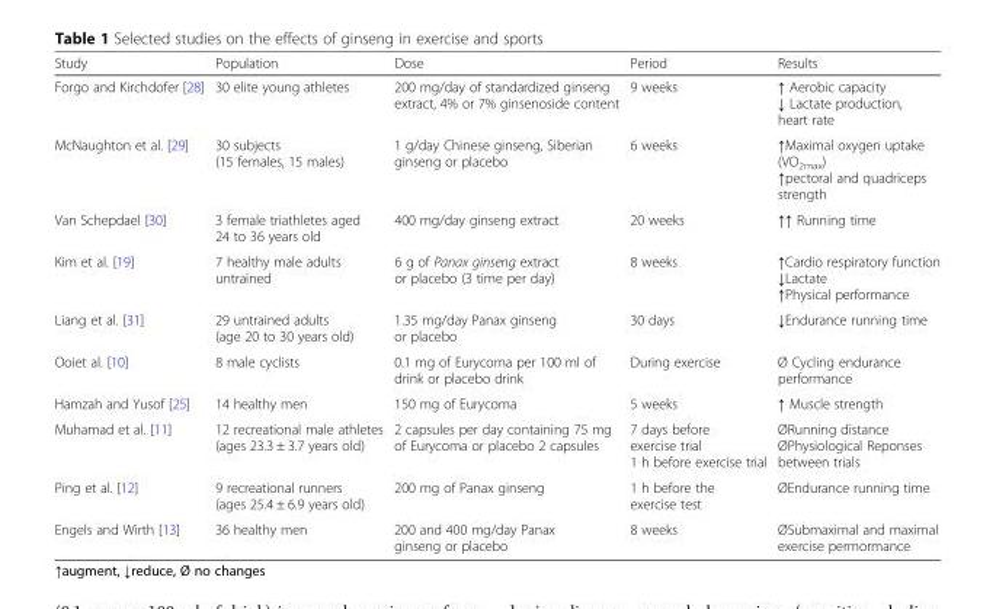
<table><thead><tr><td>Study</td><td>Population</td><td>Dose</td><td>Period</td><td>Results</td></tr></thead><tbody><tr><td>Forgo and Kirchdofer [28]</td><td>30 elite young athletes</td><td>200 mg/day of standardized ginseng extract, 4% or 7% ginsenoside content</td><td>9 weeks</td><td>↑ Aerobic capacity ↓ Lactate production, heart rate</td></tr><tr><td>McNaughton et al. [29]</td><td>30 subjects (15 females, 15 males)</td><td>1 g/day Chinese ginseng, Siberian ginseng or placebo</td><td>6 weeks</td><td>↑Maximal oxygen uptake (VO<sub>2max</sub>) ↑pectoral and quadriceps strength</td></tr><tr><td>Van Schepdael [30]</td><td>3 female triathletes aged 24 to 36 years old</td><td>400 mg/day ginseng extract</td><td>20 weeks</td><td>↑↑ Running time</td></tr><tr><td>Kim et al. [19]</td><td>7 healthy male adults untrained</td><td>6 g of Panax ginseng extract or placebo (3 time per day)</td><td>8 weeks</td><td>↑Cardio respiratory function ↓Lactate ↑Physical performance</td></tr><tr><td>Liang et al. [31]</td><td>29 untrained adults (age 20 to 30 years old)</td><td>1.35 mg/day Panax ginseng or placebo</td><td>30 days</td><td>↓Endurance running time</td></tr><tr><td>Ooiet al. [10]</td><td>8 male cyclists</td><td>0.1 mg of Eurycoma per 100 ml of drink or placebo drink</td><td>During exercise</td><td>Ø Cycling endurance performance</td></tr><tr><td>Hamzah and Yusof [25]</td><td>14 healthy men</td><td>150 mg of Eurycoma</td><td>5 weeks</td><td>↑ Muscle strength</td></tr><tr><td>Muhamad et al. [11]</td><td>12 recreational male athletes (ages 23.3 ± 3.7 years old)</td><td>2 capsules per day containing 75 mg of Eurycoma or placebo 2 capsules</td><td>7 days before exercise trial 1 h before exercise trial</td><td>ØRunning distance ØPhysiological Reponses between trials</td></tr><tr><td>Ping et al. [12]</td><td>9 recreational runners (ages 25.4 ± 6.9 years old)</td><td>200 mg of Panax ginseng</td><td>1 h before the exercise test</td><td>ØEndurance running time</td></tr><tr><td>Engels and Wirth [13]</td><td>36 healthy men</td><td>200 and 400 mg/day Panax ginseng or placebo</td><td>8 weeks</td><td>ØSubmaximal and maximal exercise permormance</td></tr></tbody></table>